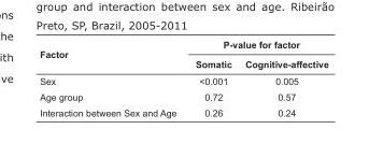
<table><thead><tr><td rowspan="2">Factor</td><td colspan="2">P-value for factor</td></tr><tr><td>Somatic</td><td>Cognitive-affective</td></tr></thead><tbody><tr><td>Sex</td><td>&lt;0.001</td><td>0.005</td></tr><tr><td>Age group</td><td>0.72</td><td>0.57</td></tr><tr><td>Interaction between Sex and Age</td><td>0.26</td><td>0.24</td></tr></tbody></table>